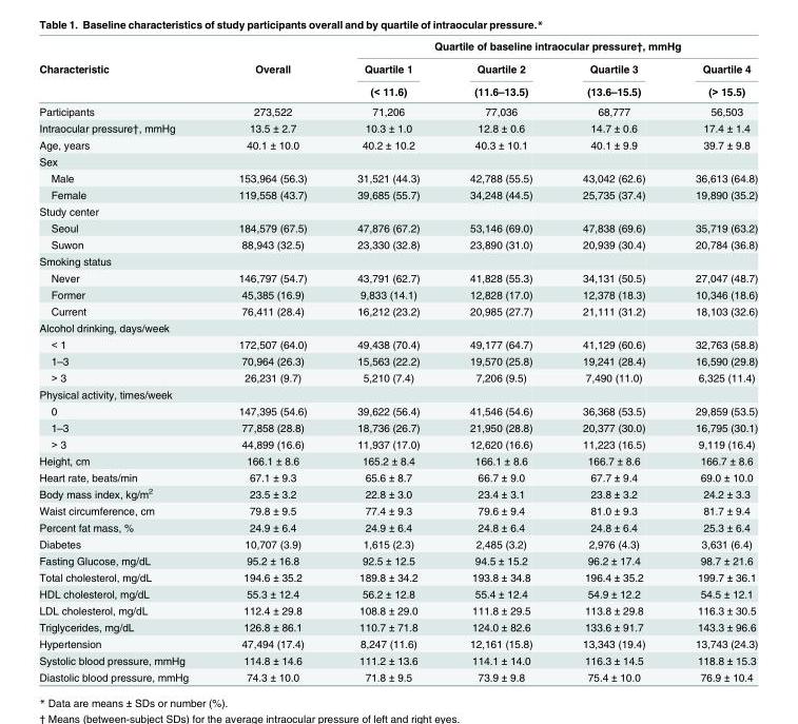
<table><thead><tr><td rowspan="3">Characteristic</td><td rowspan="3">Overall</td><td colspan="4">Quartile of baseline intraocular pressure†, mmHg</td></tr><tr><td rowspan="2">Quartile 1 (&lt; 11.6)</td><td rowspan="2">Quartile 2 (11.6–13.5)</td><td rowspan="2">Quartile 3 (13.6–15.5)</td><td rowspan="2">Quartile 4 (&gt; 15.5)</td></tr><tr></tr></thead><tbody><tr><td>Participants</td><td>273,522</td><td>71,206</td><td>77,036</td><td>68,777</td><td>56,503</td></tr><tr><td>Intraocular pressure†, mmHg</td><td>13.5 ± 2.7</td><td>10.3 ± 1.0</td><td>12.8 ± 0.6</td><td>14.7 ± 0.6</td><td>17.4 ± 1.4</td></tr><tr><td>Age, years</td><td>40.1 ± 10.0</td><td>40.2 ± 10.2</td><td>40.3 ± 10.1</td><td>40.1 ± 9.9</td><td>39.7 ± 9.8</td></tr><tr><td colspan="6">Sex</td></tr><tr><td>Male</td><td>153,964 (56.3)</td><td>31,521 (44.3)</td><td>42,788 (55.5)</td><td>43,042 (62.6)</td><td>36,613 (64.8)</td></tr><tr><td>Female</td><td>119,558 (43.7)</td><td>39,685 (55.7)</td><td>34,248 (44.5)</td><td>25,735 (37.4)</td><td>19,890 (35.2)</td></tr><tr><td colspan="6">Study center</td></tr><tr><td>Seoul</td><td>184,579 (67.5)</td><td>47,876 (67.2)</td><td>53,146 (69.0)</td><td>47,838 (69.6)</td><td>35,719 (63.2)</td></tr><tr><td>Suwon</td><td>88,943 (32.5)</td><td>23,330 (32.8)</td><td>23,890 (31.0)</td><td>20,939 (30.4)</td><td>20,784 (36.8)</td></tr><tr><td colspan="6">Smoking status</td></tr><tr><td>Never</td><td>146,797 (54.7)</td><td>43,791 (62.7)</td><td>41,828 (55.3)</td><td>34,131 (50.5)</td><td>27,047 (48.7)</td></tr><tr><td>Former</td><td>45,385 (16.9)</td><td>9,833 (14.1)</td><td>12,828 (17.0)</td><td>12,378 (18.3)</td><td>10,346 (18.6)</td></tr><tr><td>Current</td><td>76,411 (28.4)</td><td>16,212 (23.2)</td><td>20,985 (27.7)</td><td>21,111 (31.2)</td><td>18,103 (32.6)</td></tr><tr><td colspan="6">Alcohol drinking, days/week</td></tr><tr><td>&lt; 1</td><td>172,507 (64.0)</td><td>49,438 (70.4)</td><td>49,177 (64.7)</td><td>41,129 (60.6)</td><td>32,763 (58.8)</td></tr><tr><td>1–3</td><td>70,964 (26.3)</td><td>15,563 (22.2)</td><td>19,570 (25.8)</td><td>19,241 (28.4)</td><td>16,590 (29.8)</td></tr><tr><td>&gt; 3</td><td>26,231 (9.7)</td><td>5,210 (7.4)</td><td>7,206 (9.5)</td><td>7,490 (11.0)</td><td>6,325 (11.4)</td></tr><tr><td colspan="6">Physical activity, times/week</td></tr><tr><td>0</td><td>147,395 (54.6)</td><td>39,622 (56.4)</td><td>41,546 (54.6)</td><td>36,368 (53.5)</td><td>29,859 (53.5)</td></tr><tr><td>1–3</td><td>77,858 (28.8)</td><td>18,736 (26.7)</td><td>21,950 (28.8)</td><td>20,377 (30.0)</td><td>16,795 (30.1)</td></tr><tr><td>&gt; 3</td><td>44,899 (16.6)</td><td>11,937 (17.0)</td><td>12,620 (16.6)</td><td>11,223 (16.5)</td><td>9,119 (16.4)</td></tr><tr><td>Height, cm</td><td>166.1 ± 8.6</td><td>165.2 ± 8.4</td><td>166.1 ± 8.6</td><td>166.7 ± 8.6</td><td>166.7 ± 8.6</td></tr><tr><td>Heart rate, beats/min</td><td>67.1 ± 9.3</td><td>65.6 ± 8.7</td><td>66.7 ± 9.0</td><td>67.7 ± 9.4</td><td>69.0 ± 10.0</td></tr><tr><td>Body mass index, kg/m<sup>2</sup></td><td>23.5 ± 3.2</td><td>22.8 ± 3.0</td><td>23.4 ± 3.1</td><td>23.8 ± 3.2</td><td>24.2 ± 3.3</td></tr><tr><td>Waist circumference, cm</td><td>79.8 ± 9.5</td><td>77.4 ± 9.3</td><td>79.6 ± 9.4</td><td>81.0 ± 9.3</td><td>81.7 ± 9.4</td></tr><tr><td>Percent fat mass, %</td><td>24.9 ± 6.4</td><td>24.9 ± 6.4</td><td>24.8 ± 6.4</td><td>24.8 ± 6.4</td><td>25.3 ± 6.4</td></tr><tr><td>Diabetes</td><td>10,707 (3.9)</td><td>1,615 (2.3)</td><td>2,485 (3.2)</td><td>2,976 (4.3)</td><td>3,631 (6.4)</td></tr><tr><td>Fasting Glucose, mg/dL</td><td>95.2 ± 16.8</td><td>92.5 ± 12.5</td><td>94.5 ± 15.2</td><td>96.2 ± 17.4</td><td>98.7 ± 21.6</td></tr><tr><td>Total cholesterol, mg/dL</td><td>194.6 ± 35.2</td><td>189.8 ± 34.2</td><td>193.8 ± 34.8</td><td>196.4 ± 35.2</td><td>199.7 ± 36.1</td></tr><tr><td>HDL cholesterol, mg/dL</td><td>55.3 ± 12.4</td><td>56.2 ± 12.8</td><td>55.4 ± 12.4</td><td>54.9 ± 12.2</td><td>54.5 ± 12.1</td></tr><tr><td>LDL cholesterol, mg/dL</td><td>112.4 ± 29.8</td><td>108.8 ± 29.0</td><td>111.8 ± 29.5</td><td>113.8 ± 29.8</td><td>116.3 ± 30.5</td></tr><tr><td>Triglycerides, mg/dL</td><td>126.8 ± 86.1</td><td>110.7 ± 71.8</td><td>124.0 ± 82.6</td><td>133.6 ± 91.7</td><td>143.3 ± 96.6</td></tr><tr><td>Hypertension</td><td>47,494 (17.4)</td><td>8,247 (11.6)</td><td>12,161 (15.8)</td><td>13,343 (19.4)</td><td>13,743 (24.3)</td></tr><tr><td>Systolic blood pressure, mmHg</td><td>114.8 ± 14.6</td><td>111.2 ± 13.6</td><td>114.1 ± 14.0</td><td>116.3 ± 14.5</td><td>118.8 ± 15.3</td></tr><tr><td>Diastolic blood pressure, mmHg</td><td>74.3 ± 10.0</td><td>71.8 ± 9.5</td><td>73.9 ± 9.8</td><td>75.4 ± 10.0</td><td>76.9 ± 10.4</td></tr></tbody></table>